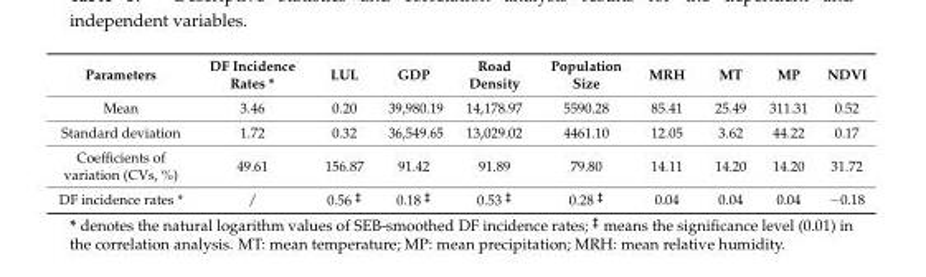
<table><thead><tr><td>Parameters</td><td>DF Incidence Rates *</td><td>LUL</td><td>GDP</td><td>Road Density</td><td>Population Size</td><td>MRH</td><td>MT</td><td>MP</td><td>NDVI</td></tr></thead><tbody><tr><td>Mean</td><td>3.46</td><td>0.20</td><td>39,980.19</td><td>14,178.97</td><td>5590.28</td><td>85.41</td><td>25.49</td><td>311.31</td><td>0.52</td></tr><tr><td>Standard deviation</td><td>1.72</td><td>0.32</td><td>36,549.65</td><td>13,029.02</td><td>4461.10</td><td>12.05</td><td>3.62</td><td>44.22</td><td>0.17</td></tr><tr><td>Coefficients of variation (CVs, %)</td><td>49.61</td><td>156.87</td><td>91.42</td><td>91.89</td><td>79.80</td><td>14.11</td><td>14.20</td><td>14.20</td><td>31.72</td></tr><tr><td>DF incidence rates *</td><td>/</td><td>0.56 <sup>‡</sup></td><td>0.18 <sup>‡</sup></td><td>0.53 <sup>‡</sup></td><td>0.28 <sup>‡</sup></td><td>0.04</td><td>0.04</td><td>0.04</td><td>−0.18</td></tr></tbody></table>